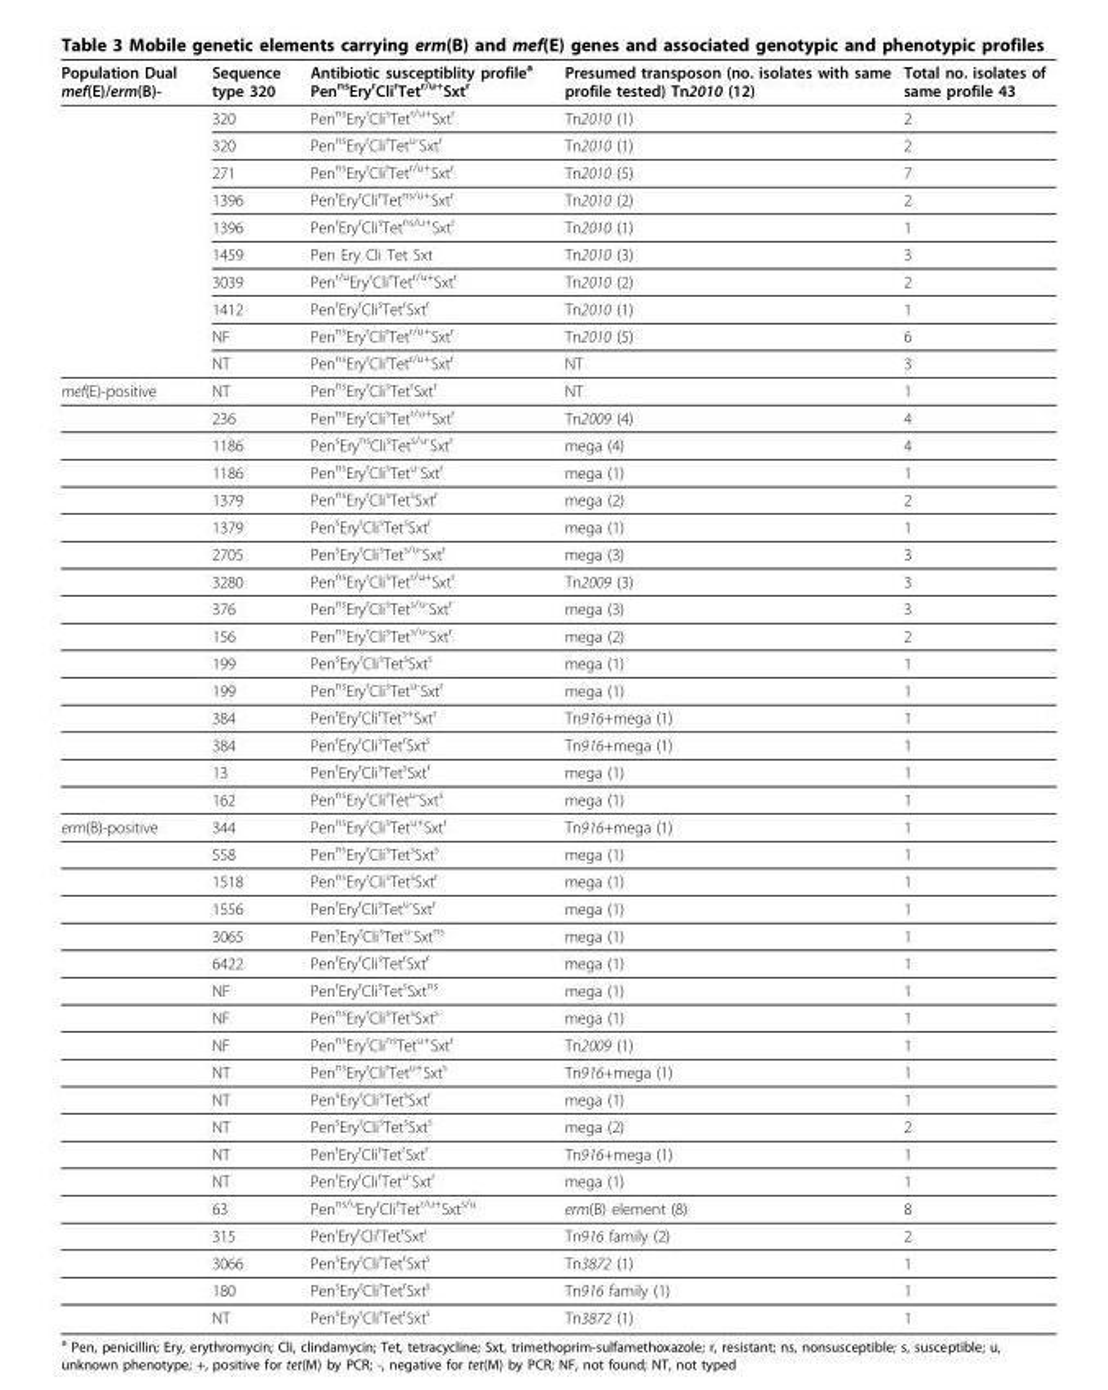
<table><thead><tr><td>Population Dual mef(E)/erm(B)-</td><td>Sequence type 320</td><td>Antibiotic susceptiblity profile<sup>a</sup> Pen<sup>ns</sup>Ery<sup>r</sup>Cli<sup>r</sup>Tet<sup>r/u+</sup>Sxt<sup>r</sup></td><td>Presumed transposon (no. isolates with same profile tested) Tn2010 (12)</td><td>Total no. isolates of same profile 43</td></tr></thead><tbody><tr><td></td><td>320</td><td>Pen<sup>ns</sup>Ery<sup>r</sup>Cli<sup>s</sup>Tet<sup>r/u+</sup>Sxt<sup>r</sup></td><td>Tn2010 (1)</td><td>2</td></tr><tr><td></td><td>320</td><td>Pen<sup>ns</sup>Ery<sup>r</sup>Cli<sup>r</sup>Tet<sup>u-</sup>Sxt<sup>r</sup></td><td>Tn2010 (1)</td><td>2</td></tr><tr><td></td><td>271</td><td>Pen<sup>ns</sup>Ery<sup>r</sup>Cli<sup>r</sup>Tet<sup>r/u+</sup>Sxt<sup>r</sup></td><td>Tn2010 (5)</td><td>7</td></tr><tr><td></td><td>1396</td><td>Pen<sup>r</sup>Ery<sup>r</sup>Cli<sup>r</sup>Tet<sup>ns/u+</sup>Sxt<sup>r</sup></td><td>Tn2010 (2)</td><td>2</td></tr><tr><td></td><td>1396</td><td>Pen<sup>r</sup>Ery<sup>r</sup>Cli<sup>s</sup>Tet<sup>ns/u+</sup>Sxt<sup>r</sup></td><td>Tn2010 (1)</td><td>1</td></tr><tr><td></td><td>1459</td><td>Pen Ery Cli Tet Sxt</td><td>Tn2010 (3)</td><td>3</td></tr><tr><td></td><td>3039</td><td>Pen<sup>r/u</sup>Ery<sup>r</sup>Cli<sup>r</sup>Tet<sup>r/u+</sup>Sxt<sup>r</sup></td><td>Tn2010 (2)</td><td>2</td></tr><tr><td></td><td>1412</td><td>Pen<sup>r</sup>Ery<sup>r</sup>Cli<sup>s</sup>Tet<sup>r</sup>Sxt<sup>r</sup></td><td>Tn2010 (1)</td><td>1</td></tr><tr><td></td><td>NF</td><td>Pen<sup>ns</sup>Ery<sup>r</sup>Cli<sup>r</sup>Tet<sup>r/u+</sup>Sxt<sup>r</sup></td><td>Tn2010 (5)</td><td>6</td></tr><tr><td></td><td>NT</td><td>Pen<sup>ns</sup>Ery<sup>r</sup>Cli<sup>r</sup>Tet<sup>r/u+</sup>Sxt<sup>r</sup></td><td>NT</td><td>3</td></tr><tr><td rowspan="16">mef(E)-positive</td><td>NT</td><td>Pen<sup>ns</sup>Ery<sup>r</sup>Cli<sup>s</sup>Tet<sup>r</sup>Sxt<sup>r</sup></td><td>NT</td><td>1</td></tr><tr><td>236</td><td>Pen<sup>ns</sup>Ery<sup>r</sup>Cli<sup>s</sup>Tet<sup>r/u+</sup>Sxt<sup>r</sup></td><td>Tn2009 (4)</td><td>4</td></tr><tr><td>1186</td><td>Pen<sup>s</sup>Ery<sup>ns</sup>Cli<sup>s</sup>Tet<sup>s/u-</sup>Sxt<sup>r</sup></td><td>mega (4)</td><td>4</td></tr><tr><td>1186</td><td>Pen<sup>ns</sup>Ery<sup>r</sup>Cli<sup>s</sup>Tet<sup>u-</sup>Sxt<sup>r</sup></td><td>mega (1)</td><td>1</td></tr><tr><td>1379</td><td>Pen<sup>ns</sup>Ery<sup>r</sup>Cli<sup>s</sup>Tet<sup>s</sup>Sxt<sup>r</sup></td><td>mega (2)</td><td>2</td></tr><tr><td>1379</td><td>Pen<sup>s</sup>Ery<sup>r</sup>Cli<sup>s</sup>Tet<sup>s</sup>Sxt<sup>r</sup></td><td>mega (1)</td><td>1</td></tr><tr><td>2705</td><td>Pen<sup>s</sup>Ery<sup>r</sup>Cli<sup>s</sup>Tet<sup>s/u-</sup>Sxt<sup>r</sup></td><td>mega (3)</td><td>3</td></tr><tr><td>3280</td><td>Pen<sup>ns</sup>Ery<sup>r</sup>Cli<sup>s</sup>Tet<sup>r/u+</sup>Sxt<sup>r</sup></td><td>Tn2009 (3)</td><td>3</td></tr><tr><td>376</td><td>Pen<sup>ns</sup>Ery<sup>r</sup>Cli<sup>s</sup>Tet<sup>s/u-</sup>Sxt<sup>r</sup></td><td>mega (3)</td><td>3</td></tr><tr><td>156</td><td>Pen<sup>ns</sup>Ery<sup>r</sup>Cli<sup>s</sup>Tet<sup>s/u-</sup>Sxt<sup>r</sup></td><td>mega (2)</td><td>2</td></tr><tr><td>199</td><td>Pen<sup>s</sup>Ery<sup>r</sup>Cli<sup>s</sup>Tet<sup>s</sup>Sxt<sup>s</sup></td><td>mega (1)</td><td>1</td></tr><tr><td>199</td><td>Pen<sup>ns</sup>Ery<sup>r</sup>Cli<sup>s</sup>Tet<sup>u-</sup>Sxt<sup>r</sup></td><td>mega (1)</td><td>1</td></tr><tr><td>384</td><td>Pen<sup>r</sup>Ery<sup>r</sup>Cli<sup>r</sup>Tet<sup>s+</sup>Sxt<sup>r</sup></td><td>Tn916+mega (1)</td><td>1</td></tr><tr><td>384</td><td>Pen<sup>r</sup>Ery<sup>r</sup>Cli<sup>s</sup>Tet<sup>r</sup>Sxt<sup>s</sup></td><td>Tn916+mega (1)</td><td>1</td></tr><tr><td>13</td><td>Pen<sup>r</sup>Ery<sup>r</sup>Cli<sup>s</sup>Tet<sup>s</sup>Sxt<sup>r</sup></td><td>mega (1)</td><td>1</td></tr><tr><td>162</td><td>Pen<sup>ns</sup>Ery<sup>r</sup>Cli<sup>r</sup>Tet<sup>u-</sup>Sxt<sup>s</sup></td><td>mega (1)</td><td>1</td></tr><tr><td rowspan="19">erm(B)-positive</td><td>344</td><td>Pen<sup>ns</sup>Ery<sup>r</sup>Cli<sup>s</sup>Tet<sup>u+</sup>Sxt<sup>r</sup></td><td>Tn916+mega (1)</td><td>1</td></tr><tr><td>558</td><td>Pen<sup>ns</sup>Ery<sup>r</sup>Cli<sup>s</sup>Tet<sup>s</sup>Sxt<sup>s</sup></td><td>mega (1)</td><td>1</td></tr><tr><td>1518</td><td>Pen<sup>ns</sup>Ery<sup>r</sup>Cli<sup>s</sup>Tet<sup>s</sup>Sxt<sup>r</sup></td><td>mega (1)</td><td>1</td></tr><tr><td>1556</td><td>Pen<sup>r</sup>Ery<sup>r</sup>Cli<sup>s</sup>Tet<sup>u-</sup>Sxt<sup>r</sup></td><td>mega (1)</td><td>1</td></tr><tr><td>3065</td><td>Pen<sup>s</sup>Ery<sup>r</sup>Cli<sup>s</sup>Tet<sup>u-</sup>Sxt<sup>ns</sup></td><td>mega (1)</td><td>1</td></tr><tr><td>6422</td><td>Pen<sup>r</sup>Ery<sup>r</sup>Cli<sup>s</sup>Tet<sup>r</sup>Sxt<sup>r</sup></td><td>mega (1)</td><td>1</td></tr><tr><td>NF</td><td>Pen<sup>r</sup>Ery<sup>r</sup>Cli<sup>s</sup>Tet<sup>s</sup>Sxt<sup>ns</sup></td><td>mega (1)</td><td>1</td></tr><tr><td>NF</td><td>Pen<sup>ns</sup>Ery<sup>r</sup>Cli<sup>s</sup>Tet<sup>s</sup>Sxt<sup>s</sup></td><td>mega (1)</td><td>1</td></tr><tr><td>NF</td><td>Pen<sup>ns</sup>Ery<sup>r</sup>Cli<sup>ns</sup>Tet<sup>u+</sup>Sxt<sup>r</sup></td><td>Tn2009 (1)</td><td>1</td></tr><tr><td>NT</td><td>Pen<sup>ns</sup>Ery<sup>r</sup>Cli<sup>r</sup>Tet<sup>u+</sup>Sxt<sup>s</sup></td><td>Tn916+mega (1)</td><td>1</td></tr><tr><td>NT</td><td>Pen<sup>s</sup>Ery<sup>r</sup>Cli<sup>s</sup>Tet<sup>s</sup>Sxt<sup>r</sup></td><td>mega (1)</td><td>1</td></tr><tr><td>NT</td><td>Pen<sup>s</sup>Ery<sup>r</sup>Cli<sup>s</sup>Tet<sup>s</sup>Sxt<sup>s</sup></td><td>mega (2)</td><td>2</td></tr><tr><td>NT</td><td>Pen<sup>r</sup>Ery<sup>r</sup>Cli<sup>r</sup>Tet<sup>r</sup>Sxt<sup>r</sup></td><td>Tn916+mega (1)</td><td>1</td></tr><tr><td>NT</td><td>Pen<sup>r</sup>Ery<sup>r</sup>Cli<sup>r</sup>Tet<sup>u-</sup>Sxt<sup>r</sup></td><td>mega (1)</td><td>1</td></tr><tr><td>63</td><td>Pen<sup>ns/u</sup>Ery<sup>r</sup>Cli<sup>r</sup>Tet<sup>r/u+</sup>Sxt<sup>s/u</sup></td><td>erm(B) element (8)</td><td>8</td></tr><tr><td>315</td><td>Pen<sup>i</sup>Ery<sup>r</sup>Cli<sup>r</sup>Tet<sup>r</sup>Sxt<sup>i</sup></td><td>Tn916 family (2)</td><td>2</td></tr><tr><td>3066</td><td>Pen<sup>s</sup>Ery<sup>r</sup>Cli<sup>r</sup>Tet<sup>r</sup>Sxt<sup>s</sup></td><td>Tn3872 (1)</td><td>1</td></tr><tr><td>180</td><td>Pen<sup>s</sup>Ery<sup>r</sup>Cli<sup>r</sup>Tet<sup>r</sup>Sxt<sup>s</sup></td><td>Tn916 family (1)</td><td>1</td></tr><tr><td>NT</td><td>Pen<sup>s</sup>Ery<sup>r</sup>Cli<sup>r</sup>Tet<sup>r</sup>Sxt<sup>s</sup></td><td>Tn3872 (1)</td><td>1</td></tr></tbody></table>